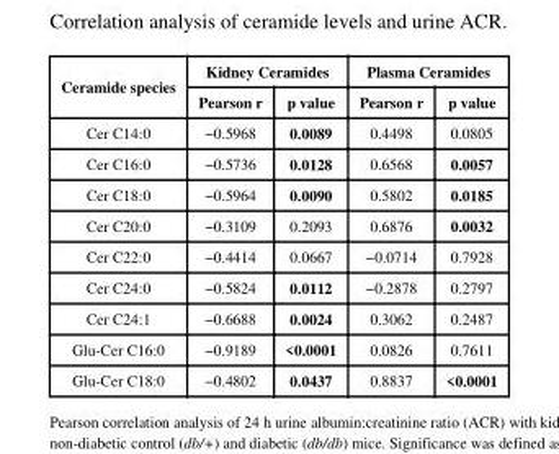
<table><thead><tr><td rowspan="2">Ceramide species</td><td colspan="2">Kidney Ceramides</td><td colspan="2">Plasma Ceramides</td></tr><tr><td>Pearson r</td><td>p value</td><td>Pearson r</td><td>p value</td></tr></thead><tbody><tr><td>Cer C14:0</td><td>−0.5968</td><td>0.0089</td><td>0.4498</td><td>0.0805</td></tr><tr><td>Cer C16:0</td><td>−0.5736</td><td>0.0128</td><td>0.6568</td><td>0.0057</td></tr><tr><td>Cer C18:0</td><td>−0.5964</td><td>0.0090</td><td>0.5802</td><td>0.0185</td></tr><tr><td>Cer C20:0</td><td>−0.3109</td><td>0.2093</td><td>0.6876</td><td>0.0032</td></tr><tr><td>Cer C22:0</td><td>−0.4414</td><td>0.0667</td><td>−0.0714</td><td>0.7928</td></tr><tr><td>Cer C24:0</td><td>−0.5824</td><td>0.0112</td><td>−0.2878</td><td>0.2797</td></tr><tr><td>Cer C24:1</td><td>−0.6688</td><td>0.0024</td><td>0.3062</td><td>0.2487</td></tr><tr><td>Glu-Cer C16:0</td><td>−0.9189</td><td>&lt;0.0001</td><td>0.0826</td><td>0.7611</td></tr><tr><td>Glu-Cer C18:0</td><td>−0.4802</td><td>0.0437</td><td>0.8837</td><td>&lt;0.0001</td></tr></tbody></table>